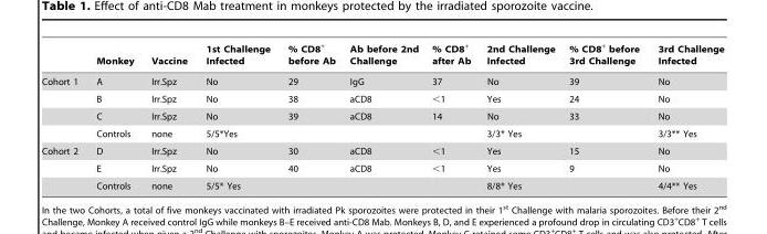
<table><thead><tr><td></td><td>Monkey</td><td>Vaccine</td><td>1st Challenge Infected</td><td>% CD8<sup>+</sup> before Ab</td><td>Ab before 2nd Challenge</td><td>% CD8<sup>+</sup> after Ab</td><td>2nd Challenge Infected</td><td>% CD8<sup>+</sup> before 3rd Challenge</td><td>3rd Challenge Infected</td></tr></thead><tbody><tr><td rowspan="4">Cohort 1</td><td>A</td><td>Irr.Spz</td><td>No</td><td>29</td><td>IgG</td><td>37</td><td>No</td><td>39</td><td>No</td></tr><tr><td>B</td><td>Irr.Spz</td><td>No</td><td>38</td><td>aCD8</td><td>&lt;1</td><td>Yes</td><td>24</td><td>No</td></tr><tr><td>C</td><td>Irr.Spz</td><td>No</td><td>39</td><td>aCD8</td><td>14</td><td>No</td><td>33</td><td>No</td></tr><tr><td>Controls</td><td>none</td><td>5/5*Yes</td><td></td><td></td><td></td><td>3/3* Yes</td><td></td><td>3/3** Yes</td></tr><tr><td rowspan="3">Cohort 2</td><td>D</td><td>Irr.Spz</td><td>No</td><td>30</td><td>aCD8</td><td>&lt;1</td><td>Yes</td><td>15</td><td>No</td></tr><tr><td>E</td><td>Irr.Spz</td><td>No</td><td>40</td><td>aCD8</td><td>&lt;1</td><td>Yes</td><td>9</td><td>No</td></tr><tr><td>Controls</td><td>none</td><td>5/5* Yes</td><td></td><td></td><td></td><td>8/8* Yes</td><td></td><td>4/4** Yes</td></tr></tbody></table>